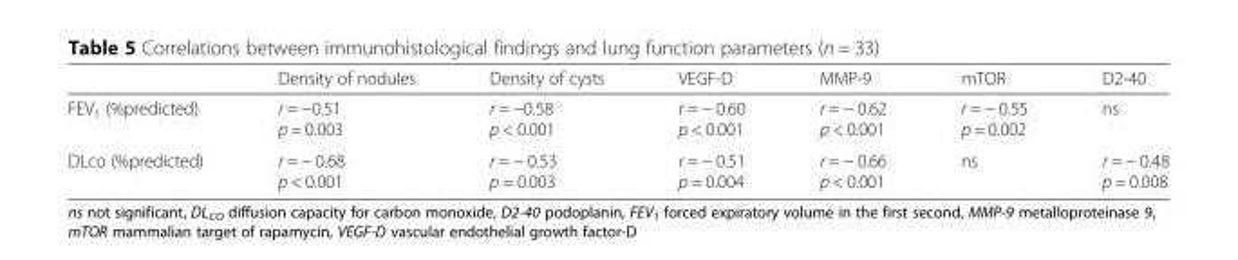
<table><thead><tr><td></td><td>Density of nodules</td><td>Density of cysts</td><td>VEGF-D</td><td>MMP-9</td><td>mTOR</td><td>D2-40</td></tr></thead><tbody><tr><td>FEV<sub>1</sub> (%predicted)</td><td>r = −0.51 p = 0.003</td><td>r = −0.58 p &lt; 0.001</td><td>r = − 0.60 p &lt; 0.001</td><td>r = − 0.62 p &lt; 0.001</td><td>r = − 0.55 p = 0.002</td><td>ns</td></tr><tr><td>DLco (%predicted)</td><td>r = − 0.68 p &lt; 0.001</td><td>r = − 0.53 p = 0.003</td><td>r = − 0.51 p = 0.004</td><td>r = − 0.66 p &lt; 0.001</td><td>ns</td><td>r = − 0.48 p = 0.008</td></tr></tbody></table>